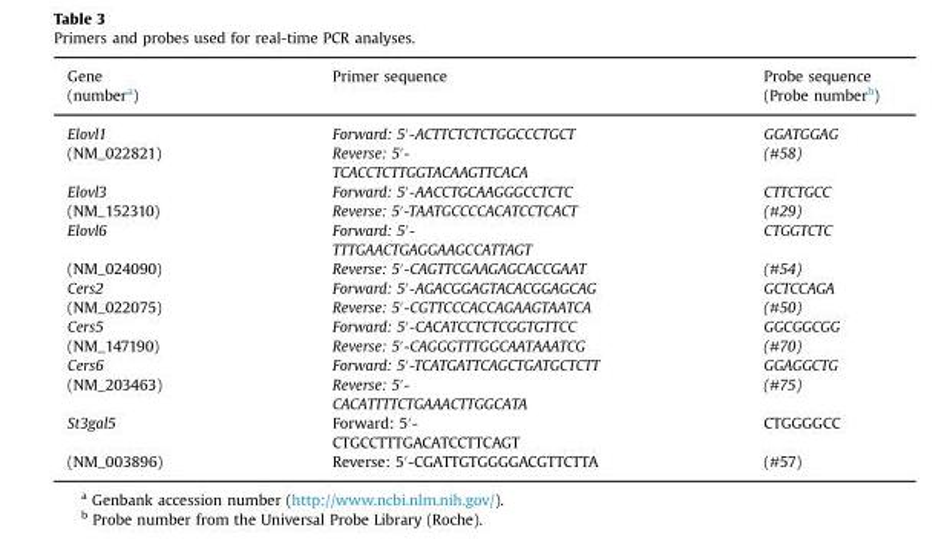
<table><thead><tr><td>Gene (number<sup>a</sup>)</td><td>Primer sequence</td><td>Probe sequence (Probe number<sup>b</sup>)</td></tr></thead><tbody><tr><td>Elovl1</td><td>Forward: 5′-ACTTCTCTCTGGCCCTGCT</td><td>GGATGGAG</td></tr><tr><td>(NM_022821)</td><td>Reverse: 5′- TCACCTCTTGGTACAAGTTCACA</td><td>(#58)</td></tr><tr><td>Elovl3</td><td>Forward: 5′-AACCTGCAAGGGCCTCTC</td><td>CTTCTGCC</td></tr><tr><td>(NM_152310)</td><td>Reverse: 5′-TAATGCCCCACATCCTCACT</td><td>(#29)</td></tr><tr><td>Elovl6</td><td>Forward: 5′- TTTGAACTGAGGAAGCCATTAGT</td><td>CTGGTCTC</td></tr><tr><td>(NM_024090)</td><td>Reverse: 5′-CAGTTCGAAGAGCACCGAAT</td><td>(#54)</td></tr><tr><td>Cers2</td><td>Forward: 5′-AGACGGAGTACACGGAGCAG</td><td>GCTCCAGA</td></tr><tr><td>(NM_022075)</td><td>Reverse: 5′-CGTTCCCACCAGAAGTAATCA</td><td>(#50)</td></tr><tr><td>Cers5</td><td>Forward: 5′-CACATCCTCTCGGTGTTCC</td><td>GGCGGCGG</td></tr><tr><td>(NM_147190)</td><td>Reverse: 5′-CAGGGTTTGGCAATAAATCG</td><td>(#70)</td></tr><tr><td>Cers6</td><td>Forward: 5′-TCATGATTCAGCTGATGCTCTT</td><td>GGAGGCTG</td></tr><tr><td>(NM_203463)</td><td>Reverse: 5′- CACATTTTCTGAAACTTGGCATA</td><td>(#75)</td></tr><tr><td>St3gal5</td><td>Forward: 5′- CTGCCTTTGACATCCTTCAGT</td><td>CTGGGGCC</td></tr><tr><td>(NM_003896)</td><td>Reverse: 5′-CGATTGTGGGGACGTTCTTA</td><td>(#57)</td></tr></tbody></table>